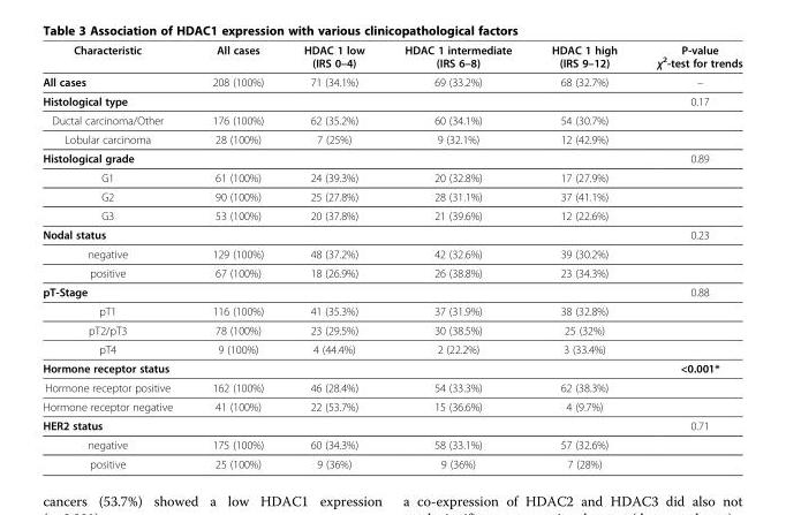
<table><thead><tr><td>Characteristic</td><td>All cases</td><td>HDAC 1 low (IRS 0–4)</td><td>HDAC 1 intermediate (IRS 6–8)</td><td>HDAC 1 high (IRS 9–12)</td><td>P-value χ<sup>2</sup>-test for trends</td></tr></thead><tbody><tr><td>All cases</td><td>208 (100%)</td><td>71 (34.1%)</td><td>69 (33.2%)</td><td>68 (32.7%)</td><td>–</td></tr><tr><td>Histological type</td><td></td><td></td><td></td><td></td><td>0.17</td></tr><tr><td>Ductal carcinoma/Other</td><td>176 (100%)</td><td>62 (35.2%)</td><td>60 (34.1%)</td><td>54 (30.7%)</td><td></td></tr><tr><td>Lobular carcinoma</td><td>28 (100%)</td><td>7 (25%)</td><td>9 (32.1%)</td><td>12 (42.9%)</td><td></td></tr><tr><td>Histological grade</td><td></td><td></td><td></td><td></td><td>0.89</td></tr><tr><td>G1</td><td>61 (100%)</td><td>24 (39.3%)</td><td>20 (32.8%)</td><td>17 (27.9%)</td><td></td></tr><tr><td>G2</td><td>90 (100%)</td><td>25 (27.8%)</td><td>28 (31.1%)</td><td>37 (41.1%)</td><td></td></tr><tr><td>G3</td><td>53 (100%)</td><td>20 (37.8%)</td><td>21 (39.6%)</td><td>12 (22.6%)</td><td></td></tr><tr><td>Nodal status</td><td></td><td></td><td></td><td></td><td>0.23</td></tr><tr><td>negative</td><td>129 (100%)</td><td>48 (37.2%)</td><td>42 (32.6%)</td><td>39 (30.2%)</td><td></td></tr><tr><td>positive</td><td>67 (100%)</td><td>18 (26.9%)</td><td>26 (38.8%)</td><td>23 (34.3%)</td><td></td></tr><tr><td>pT-Stage</td><td></td><td></td><td></td><td></td><td>0.88</td></tr><tr><td>pT1</td><td>116 (100%)</td><td>41 (35.3%)</td><td>37 (31.9%)</td><td>38 (32.8%)</td><td></td></tr><tr><td>pT2/pT3</td><td>78 (100%)</td><td>23 (29.5%)</td><td>30 (38.5%)</td><td>25 (32%)</td><td></td></tr><tr><td>pT4</td><td>9 (100%)</td><td>4 (44.4%)</td><td>2 (22.2%)</td><td>3 (33.4%)</td><td></td></tr><tr><td>Hormone receptor status</td><td></td><td></td><td></td><td></td><td>&lt;0.001*</td></tr><tr><td>Hormone receptor positive</td><td>162 (100%)</td><td>46 (28.4%)</td><td>54 (33.3%)</td><td>62 (38.3%)</td><td></td></tr><tr><td>Hormone receptor negative</td><td>41 (100%)</td><td>22 (53.7%)</td><td>15 (36.6%)</td><td>4 (9.7%)</td><td></td></tr><tr><td>HER2 status</td><td></td><td></td><td></td><td></td><td>0.71</td></tr><tr><td>negative</td><td>175 (100%)</td><td>60 (34.3%)</td><td>58 (33.1%)</td><td>57 (32.6%)</td><td></td></tr><tr><td>positive</td><td>25 (100%)</td><td>9 (36%)</td><td>9 (36%)</td><td>7 (28%)</td><td></td></tr></tbody></table>